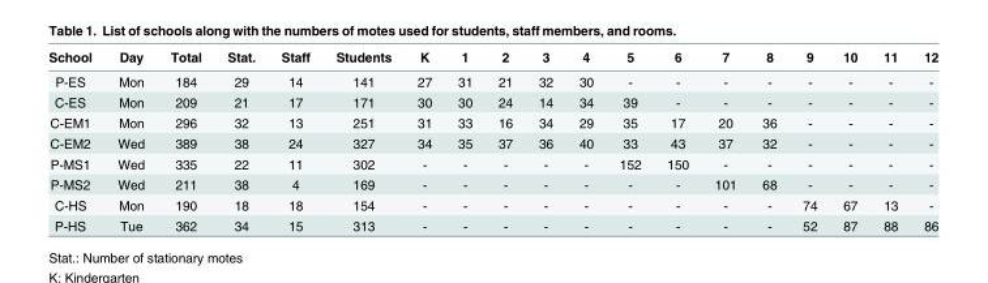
<table><thead><tr><td>School</td><td>Day</td><td>Total</td><td>Stat.</td><td>Staff</td><td>Students</td><td>K</td><td>1</td><td>2</td><td>3</td><td>4</td><td>5</td><td>6</td><td>7</td><td>8</td><td>9</td><td>10</td><td>11</td><td>12</td></tr></thead><tbody><tr><td>P-ES</td><td>Mon</td><td>184</td><td>29</td><td>14</td><td>141</td><td>27</td><td>31</td><td>21</td><td>32</td><td>30</td><td>-</td><td>-</td><td>-</td><td>-</td><td>-</td><td>-</td><td>-</td><td>-</td></tr><tr><td>C-ES</td><td>Mon</td><td>209</td><td>21</td><td>17</td><td>171</td><td>30</td><td>30</td><td>24</td><td>14</td><td>34</td><td>39</td><td>-</td><td>-</td><td>-</td><td>-</td><td>-</td><td>-</td><td>-</td></tr><tr><td>C-EM1</td><td>Mon</td><td>296</td><td>32</td><td>13</td><td>251</td><td>31</td><td>33</td><td>16</td><td>34</td><td>29</td><td>35</td><td>17</td><td>20</td><td>36</td><td>-</td><td>-</td><td>-</td><td>-</td></tr><tr><td>C-EM2</td><td>Wed</td><td>389</td><td>38</td><td>24</td><td>327</td><td>34</td><td>35</td><td>37</td><td>36</td><td>40</td><td>33</td><td>43</td><td>37</td><td>32</td><td>-</td><td>-</td><td>-</td><td>-</td></tr><tr><td>P-MS1</td><td>Wed</td><td>335</td><td>22</td><td>11</td><td>302</td><td>-</td><td>-</td><td>-</td><td>-</td><td>-</td><td>152</td><td>150</td><td>-</td><td>-</td><td>-</td><td>-</td><td>-</td><td>-</td></tr><tr><td>P-MS2</td><td>Wed</td><td>211</td><td>38</td><td>4</td><td>169</td><td>-</td><td>-</td><td>-</td><td>-</td><td>-</td><td>-</td><td>-</td><td>101</td><td>68</td><td>-</td><td>-</td><td>-</td><td>-</td></tr><tr><td>C-HS</td><td>Mon</td><td>190</td><td>18</td><td>18</td><td>154</td><td>-</td><td>-</td><td>-</td><td>-</td><td>-</td><td>-</td><td>-</td><td>-</td><td>-</td><td>74</td><td>67</td><td>13</td><td>-</td></tr><tr><td>P-HS</td><td>Tue</td><td>362</td><td>34</td><td>15</td><td>313</td><td>-</td><td>-</td><td>-</td><td>-</td><td>-</td><td>-</td><td>-</td><td>-</td><td>-</td><td>52</td><td>87</td><td>88</td><td>86</td></tr></tbody></table>